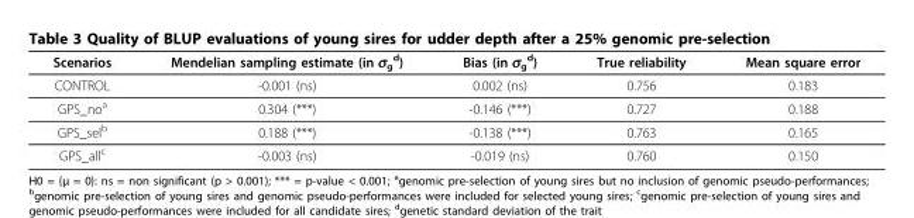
<table><thead><tr><td>Scenarios</td><td>Mendelian sampling estimate (in σ<sub>g</sub> <sup>d</sup>)</td><td>Bias (in σ<sub>g</sub> <sup>d</sup>)</td><td>True reliability</td><td>Mean square error</td></tr></thead><tbody><tr><td>CONTROL</td><td>-0.001 (ns)</td><td>0.002 (ns)</td><td>0.756</td><td>0.183</td></tr><tr><td>GPS_no<sup>a</sup></td><td>0.304 (***)</td><td>-0.146 (***)</td><td>0.727</td><td>0.188</td></tr><tr><td>GPS_sel<sup>b</sup></td><td>0.188 (***)</td><td>-0.138 (***)</td><td>0.763</td><td>0.165</td></tr><tr><td>GPS_all<sup>c</sup></td><td>-0.003 (ns)</td><td>-0.019 (ns)</td><td>0.760</td><td>0.150</td></tr></tbody></table>